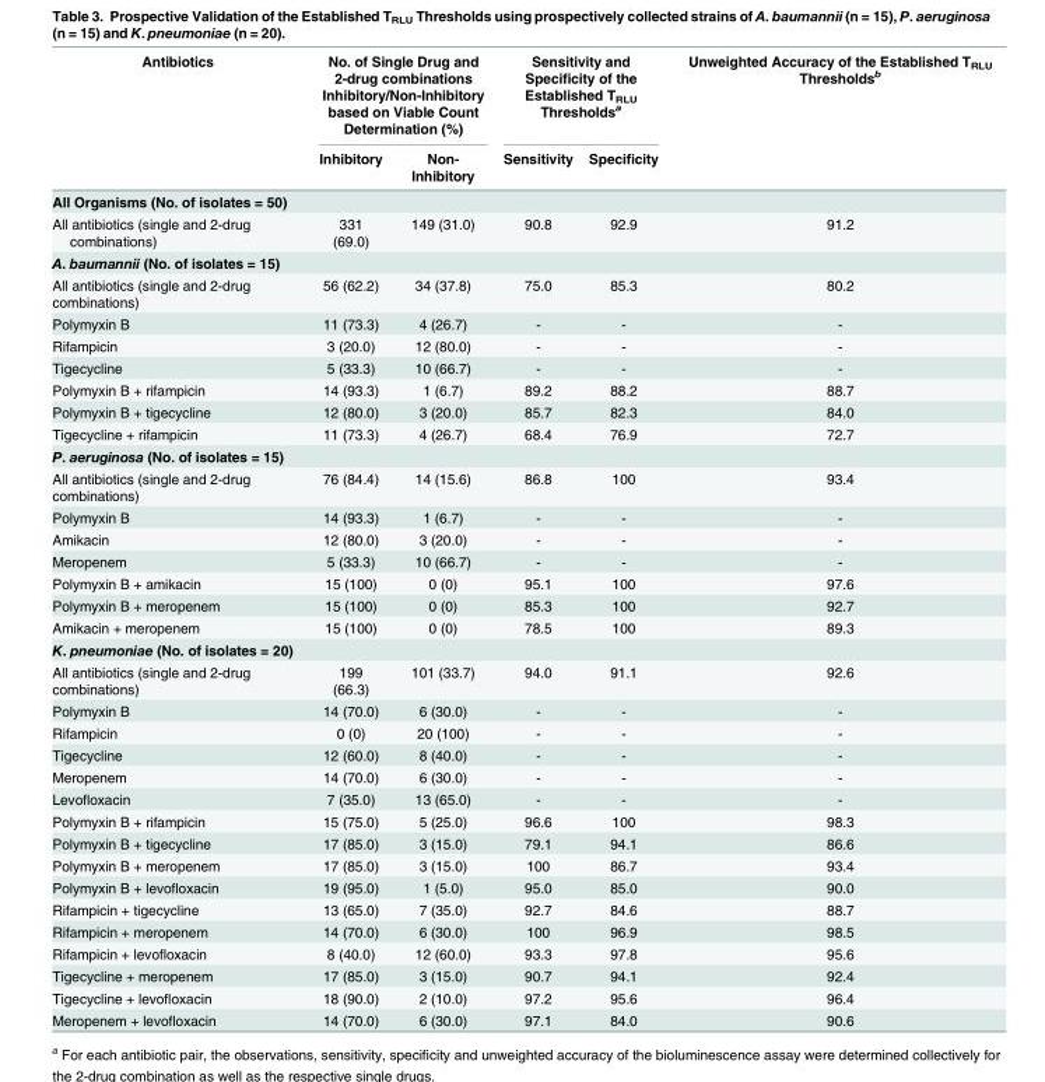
<table><thead><tr><td rowspan="2">Antibiotics</td><td colspan="2">No. of Single Drug and 2-drug combinations Inhibitory/Non-Inhibitory based on Viable Count Determination (%)</td><td colspan="2">Sensitivity and Specificity of the Established T<sub>RLU</sub> Thresholds<sup>a</sup></td><td rowspan="2">Unweighted Accuracy of the Established T<sub>RLU</sub> Thresholds<sup>b</sup></td></tr><tr><td>Inhibitory</td><td>Non- Inhibitory</td><td>Sensitivity</td><td>Specificity</td></tr></thead><tbody><tr><td colspan="6">All Organisms (No. of isolates = 50)</td></tr><tr><td>All antibiotics (single and 2-drug combinations)</td><td>331 (69.0)</td><td>149 (31.0)</td><td>90.8</td><td>92.9</td><td>91.2</td></tr><tr><td colspan="6">A. baumannii (No. of isolates = 15)</td></tr><tr><td>All antibiotics (single and 2-drug combinations)</td><td>56 (62.2)</td><td>34 (37.8)</td><td>75.0</td><td>85.3</td><td>80.2</td></tr><tr><td>Polymyxin B</td><td>11 (73.3)</td><td>4 (26.7)</td><td>-</td><td>-</td><td>-</td></tr><tr><td>Rifampicin</td><td>3 (20.0)</td><td>12 (80.0)</td><td>-</td><td>-</td><td>-</td></tr><tr><td>Tigecycline</td><td>5 (33.3)</td><td>10 (66.7)</td><td>-</td><td>-</td><td>-</td></tr><tr><td>Polymyxin B + rifampicin</td><td>14 (93.3)</td><td>1 (6.7)</td><td>89.2</td><td>88.2</td><td>88.7</td></tr><tr><td>Polymyxin B + tigecycline</td><td>12 (80.0)</td><td>3 (20.0)</td><td>85.7</td><td>82.3</td><td>84.0</td></tr><tr><td>Tigecycline + rifampicin</td><td>11 (73.3)</td><td>4 (26.7)</td><td>68.4</td><td>76.9</td><td>72.7</td></tr><tr><td colspan="6">P. aeruginosa (No. of isolates = 15)</td></tr><tr><td>All antibiotics (single and 2-drug combinations)</td><td>76 (84.4)</td><td>14 (15.6)</td><td>86.8</td><td>100</td><td>93.4</td></tr><tr><td>Polymyxin B</td><td>14 (93.3)</td><td>1 (6.7)</td><td>-</td><td>-</td><td>-</td></tr><tr><td>Amikacin</td><td>12 (80.0)</td><td>3 (20.0)</td><td>-</td><td>-</td><td>-</td></tr><tr><td>Meropenem</td><td>5 (33.3)</td><td>10 (66.7)</td><td>-</td><td>-</td><td>-</td></tr><tr><td>Polymyxin B + amikacin</td><td>15 (100)</td><td>0 (0)</td><td>95.1</td><td>100</td><td>97.6</td></tr><tr><td>Polymyxin B + meropenem</td><td>15 (100)</td><td>0 (0)</td><td>85.3</td><td>100</td><td>92.7</td></tr><tr><td>Amikacin + meropenem</td><td>15 (100)</td><td>0 (0)</td><td>78.5</td><td>100</td><td>89.3</td></tr><tr><td colspan="6">K. pneumoniae (No. of isolates = 20)</td></tr><tr><td>All antibiotics (single and 2-drug combinations)</td><td>199 (66.3)</td><td>101 (33.7)</td><td>94.0</td><td>91.1</td><td>92.6</td></tr><tr><td>Polymyxin B</td><td>14 (70.0)</td><td>6 (30.0)</td><td>-</td><td>-</td><td>-</td></tr><tr><td>Rifampicin</td><td>0 (0)</td><td>20 (100)</td><td>-</td><td>-</td><td>-</td></tr><tr><td>Tigecycline</td><td>12 (60.0)</td><td>8 (40.0)</td><td>-</td><td>-</td><td>-</td></tr><tr><td>Meropenem</td><td>14 (70.0)</td><td>6 (30.0)</td><td>-</td><td>-</td><td>-</td></tr><tr><td>Levofloxacin</td><td>7 (35.0)</td><td>13 (65.0)</td><td>-</td><td>-</td><td>-</td></tr><tr><td>Polymyxin B + rifampicin</td><td>15 (75.0)</td><td>5 (25.0)</td><td>96.6</td><td>100</td><td>98.3</td></tr><tr><td>Polymyxin B + tigecycline</td><td>17 (85.0)</td><td>3 (15.0)</td><td>79.1</td><td>94.1</td><td>86.6</td></tr><tr><td>Polymyxin B + meropenem</td><td>17 (85.0)</td><td>3 (15.0)</td><td>100</td><td>86.7</td><td>93.4</td></tr><tr><td>Polymyxin B + levofloxacin</td><td>19 (95.0)</td><td>1 (5.0)</td><td>95.0</td><td>85.0</td><td>90.0</td></tr><tr><td>Rifampicin + tigecycline</td><td>13 (65.0)</td><td>7 (35.0)</td><td>92.7</td><td>84.6</td><td>88.7</td></tr><tr><td>Rifampicin + meropenem</td><td>14 (70.0)</td><td>6 (30.0)</td><td>100</td><td>96.9</td><td>98.5</td></tr><tr><td>Rifampicin + levofloxacin</td><td>8 (40.0)</td><td>12 (60.0)</td><td>93.3</td><td>97.8</td><td>95.6</td></tr><tr><td>Tigecycline + meropenem</td><td>17 (85.0)</td><td>3 (15.0)</td><td>90.7</td><td>94.1</td><td>92.4</td></tr><tr><td>Tigecycline + levofloxacin</td><td>18 (90.0)</td><td>2 (10.0)</td><td>97.2</td><td>95.6</td><td>96.4</td></tr><tr><td>Meropenem + levofloxacin</td><td>14 (70.0)</td><td>6 (30.0)</td><td>97.1</td><td>84.0</td><td>90.6</td></tr></tbody></table>